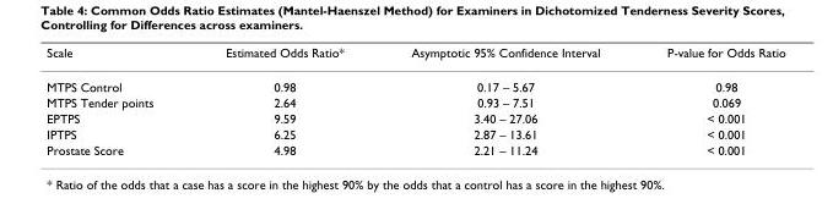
<table><thead><tr><td>Scale</td><td>Estimated Odds Ratio*</td><td>Asymptotic 95% Confidence Interval</td><td>P-value for Odds Ratio</td></tr></thead><tbody><tr><td>MTPS Control</td><td>0.98</td><td>0.17 – 5.67</td><td>0.98</td></tr><tr><td>MTPS Tender points</td><td>2.64</td><td>0.93 – 7.51</td><td>0.069</td></tr><tr><td>EPTPS</td><td>9.59</td><td>3.40 – 27.06</td><td>&lt; 0.001</td></tr><tr><td>IPTPS</td><td>6.25</td><td>2.87 – 13.61</td><td>&lt; 0.001</td></tr><tr><td>Prostate Score</td><td>4.98</td><td>2.21 – 11.24</td><td>&lt; 0.001</td></tr></tbody></table>